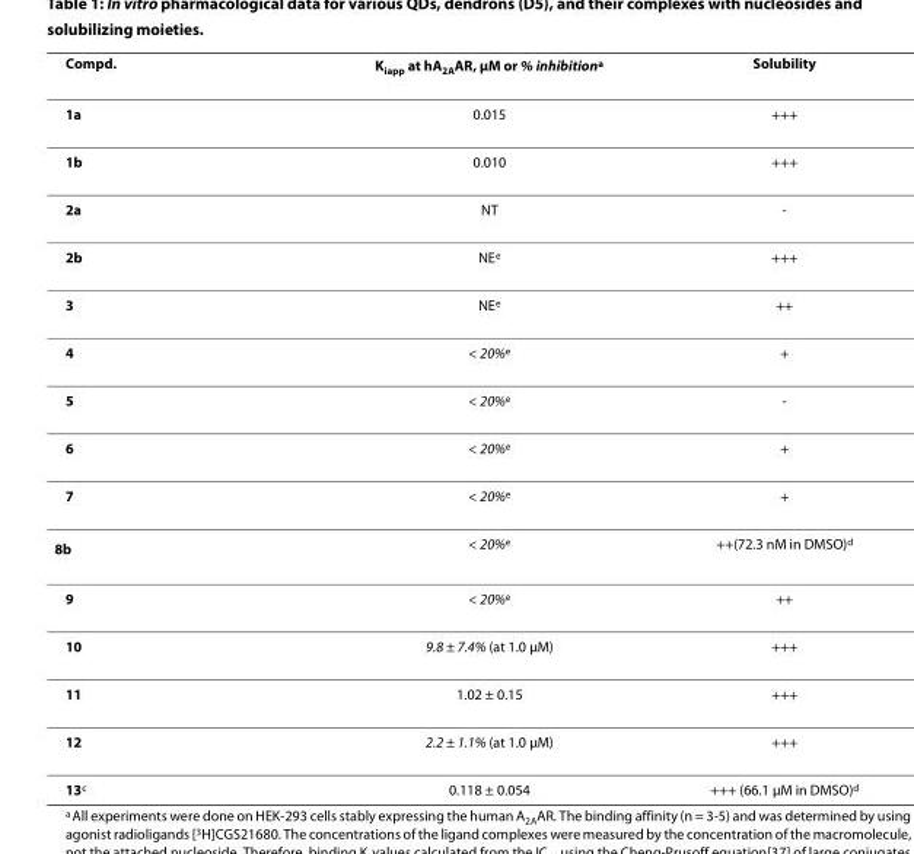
<table><thead><tr><td>Compd.</td><td>K<sub>iapp</sub> at hA<sub>2A</sub>AR, μM or % inhibition<sup>a</sup></td><td>Solubility</td></tr></thead><tbody><tr><td>1a</td><td>0.015</td><td>+++</td></tr><tr><td>1b</td><td>0.010</td><td>+++</td></tr><tr><td>2a</td><td>NT</td><td>-</td></tr><tr><td>2b</td><td>NE<sup>e</sup></td><td>+++</td></tr><tr><td>3</td><td>NE<sup>e</sup></td><td>++</td></tr><tr><td>4</td><td>&lt; 20%<sup>e</sup></td><td>+</td></tr><tr><td>5</td><td>&lt; 20%<sup>e</sup></td><td>-</td></tr><tr><td>6</td><td>&lt; 20%<sup>e</sup></td><td>+</td></tr><tr><td>7</td><td>&lt; 20%<sup>e</sup></td><td>+</td></tr><tr><td>8<sup>b</sup></td><td>&lt; 20%<sup>e</sup></td><td>++(72.3 nM in DMSO)<sup>d</sup></td></tr><tr><td>9</td><td>&lt; 20%<sup>e</sup></td><td>++</td></tr><tr><td>10</td><td>9.8 ± 7.4% (at 1.0 μM)</td><td>+++</td></tr><tr><td>11</td><td>1.02 ± 0.15</td><td>+++</td></tr><tr><td>12</td><td>2.2 ± 1.1% (at 1.0 μM)</td><td>+++</td></tr><tr><td>13<sup>c</sup></td><td>0.118 ± 0.054</td><td>+++ (66.1 μM in DMSO)<sup>d</sup></td></tr></tbody></table>